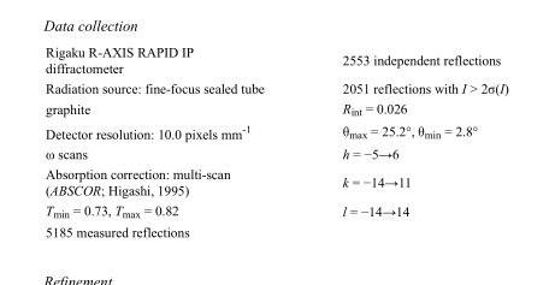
<table><tbody><tr><td>Rigaku R-AXIS RAPID IP diffractometer</td><td>2553 independent reflections</td></tr><tr><td>Radiation source: fine-focus sealed tube</td><td>2051 reflections with I &gt; 2σ(I)</td></tr><tr><td>graphite</td><td>R<sub>int</sub> = 0.026</td></tr><tr><td>Detector resolution: 10.0 pixels mm<sup>-1</sup></td><td>θ<sub>max</sub> = 25.2°, θ<sub>min</sub> = 2.8°</td></tr><tr><td>ω scans</td><td>h = −5→6</td></tr><tr><td>Absorption correction: multi-scan (ABSCOR; Higashi, 1995)</td><td>k = −14→11</td></tr><tr><td>T<sub>min</sub> = 0.73, T<sub>max</sub> = 0.82</td><td>l = −14→14</td></tr><tr><td>5185 measured reflections</td><td></td></tr></tbody></table>